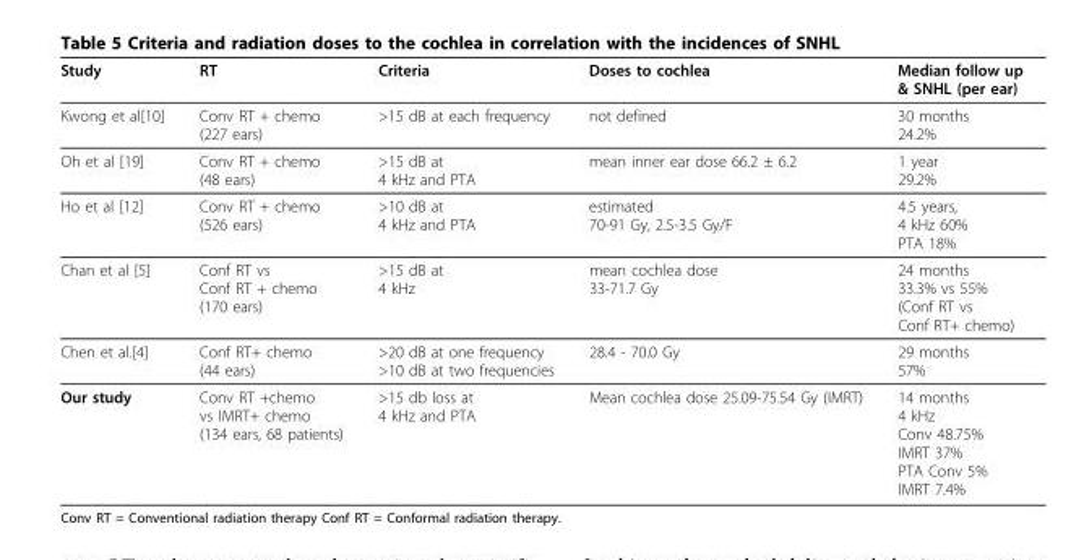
<table><thead><tr><td>Study</td><td>RT</td><td>Criteria</td><td>Doses to cochlea</td><td>Median follow up &amp; SNHL (per ear)</td></tr></thead><tbody><tr><td>Kwong et al[10]</td><td>Conv RT + chemo (227 ears)</td><td>&gt;15 dB at each frequency</td><td>not defined</td><td>30 months 24.2%</td></tr><tr><td>Oh et al [19]</td><td>Conv RT + chemo (48 ears)</td><td>&gt;15 dB at 4 kHz and PTA</td><td>mean inner ear dose 66.2 ± 6.2</td><td>1 year 29.2%</td></tr><tr><td>Ho et al [12]</td><td>Conv RT + chemo (526 ears)</td><td>&gt;10 dB at 4 kHz and PTA</td><td>estimated 70-91 Gy, 2.5-3.5 Gy/F</td><td>4.5 years, 4 kHz 60% PTA 18%</td></tr><tr><td>Chan et al [5]</td><td>Conf RT vs Conf RT + chemo (170 ears)</td><td>&gt;15 dB at 4 kHz</td><td>mean cochlea dose 33-71.7 Gy</td><td>24 months 33.3% vs 55% (Conf RT vs Conf RT+ chemo)</td></tr><tr><td>Chen et al.[4]</td><td>Conf RT+ chemo (44 ears)</td><td>&gt;20 dB at one frequency &gt;10 dB at two frequencies</td><td>28.4 - 70.0 Gy</td><td>29 months 57%</td></tr><tr><td>Our study</td><td>Conv RT +chemo vs IMRT+ chemo (134 ears, 68 patients)</td><td>&gt;15 db loss at 4 kHz and PTA</td><td>Mean cochlea dose 25.09-75.54 Gy (IMRT)</td><td>14 months 4 kHz Conv 48.75% IMRT 37% PTA Conv 5% IMRT 7.4%</td></tr></tbody></table>